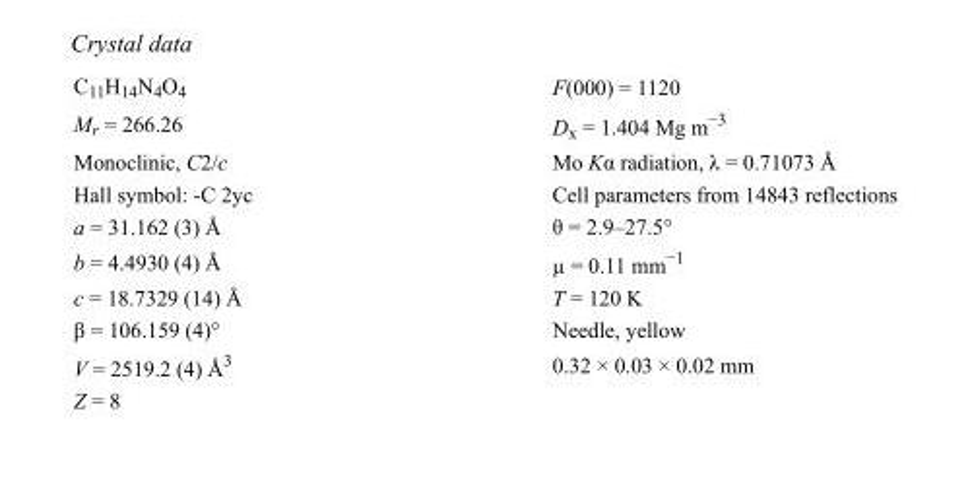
<table><tbody><tr><td>C<sub>11</sub>H<sub>14</sub>N<sub>4</sub>O<sub>4</sub></td><td>F(000) = 1120</td></tr><tr><td>M<sub>r</sub> = 266.26</td><td>D<sub>x</sub> = 1.404 Mg m<sup>−3</sup></td></tr><tr><td>Monoclinic, C2/c</td><td>Mo Kα radiation, λ = 0.71073 Å</td></tr><tr><td>Hall symbol: -C 2yc</td><td>Cell parameters from 14843 reflections</td></tr><tr><td>a = 31.162 (3) Å</td><td>θ = 2.9–27.5°</td></tr><tr><td>b = 4.4930 (4) Å</td><td>µ = 0.11 mm<sup>−1</sup></td></tr><tr><td>c = 18.7329 (14) Å</td><td>T = 120 K</td></tr><tr><td>β = 106.159 (4)°</td><td>Needle, yellow</td></tr><tr><td>V = 2519.2 (4) Å<sup>3</sup></td><td>0.32 × 0.03 × 0.02 mm</td></tr><tr><td>Z = 8</td><td></td></tr></tbody></table>